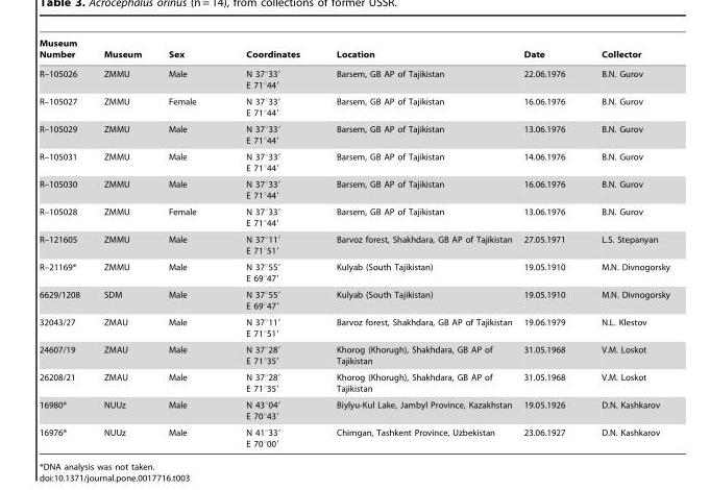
<table><thead><tr><td>Museum Number</td><td>Museum</td><td>Sex</td><td>Coordinates</td><td>Location</td><td>Date</td><td>Collector</td></tr></thead><tbody><tr><td>R–105026</td><td>ZMMU</td><td>Male</td><td>N 37°33′ E 71°44′</td><td>Barsem, GB AP of Tajikistan</td><td>22.06.1976</td><td>B.N. Gurov</td></tr><tr><td>R–105027</td><td>ZMMU</td><td>Female</td><td>N 37°33′ E 71°44′</td><td>Barsem, GB AP of Tajikistan</td><td>16.06.1976</td><td>B.N. Gurov</td></tr><tr><td>R–105029</td><td>ZMMU</td><td>Male</td><td>N 37°33′ E 71°44′</td><td>Barsem, GB AP of Tajikistan</td><td>13.06.1976</td><td>B.N. Gurov</td></tr><tr><td>R–105031</td><td>ZMMU</td><td>Male</td><td>N 37°33′ E 71°44′</td><td>Barsem, GB AP of Tajikistan</td><td>14.06.1976</td><td>B.N. Gurov</td></tr><tr><td>R–105030</td><td>ZMMU</td><td>Male</td><td>N 37°33′ E 71°44′</td><td>Barsem, GB AP of Tajikistan</td><td>16.06.1976</td><td>B.N. Gurov</td></tr><tr><td>R–105028</td><td>ZMMU</td><td>Female</td><td>N 37°33′ E 71°44′</td><td>Barsem, GB AP of Tajikistan</td><td>13.06.1976</td><td>B.N. Gurov</td></tr><tr><td>R–121605</td><td>ZMMU</td><td>Male</td><td>N 37°11′ E 71°51′</td><td>Barvoz forest, Shakhdara, GB AP of Tajikistan</td><td>27.05.1971</td><td>L.S. Stepanyan</td></tr><tr><td>R–21169*</td><td>ZMMU</td><td>Male</td><td>N 37°55′ E 69°47′</td><td>Kulyab (South Tajikistan)</td><td>19.05.1910</td><td>M.N. Divnogorsky</td></tr><tr><td>6629/1208</td><td>SDM</td><td>Male</td><td>N 37°55′ E 69°47′</td><td>Kulyab (South Tajikistan)</td><td>19.05.1910</td><td>M.N. Divnogorsky</td></tr><tr><td>32043/27</td><td>ZMAU</td><td>Male</td><td>N 37°11′ E 71°51′</td><td>Barvoz forest, Shakhdara, GB AP of Tajikistan</td><td>19.06.1979</td><td>N.L. Klestov</td></tr><tr><td>24607/19</td><td>ZMAU</td><td>Male</td><td>N 37°28′ E 71°35′</td><td>Khorog (Khorugh), Shakhdara, GB AP of Tajikistan</td><td>31.05.1968</td><td>V.M. Loskot</td></tr><tr><td>26208/21</td><td>ZMAU</td><td>Male</td><td>N 37°28′ E 71°35′</td><td>Khorog (Khorugh), Shakhdara, GB AP of Tajikistan</td><td>31.05.1968</td><td>V.M. Loskot</td></tr><tr><td>16980*</td><td>NUUz</td><td>Male</td><td>N 43°04′ E 70°43′</td><td>Biylyu-Kul Lake, Jambyl Province, Kazakhstan</td><td>19.05.1926</td><td>D.N. Kashkarov</td></tr><tr><td>16976*</td><td>NUUz</td><td>Male</td><td>N 41°33′ E 70°00′</td><td>Chimgan, Tashkent Province, Uzbekistan</td><td>23.06.1927</td><td>D.N. Kashkarov</td></tr></tbody></table>